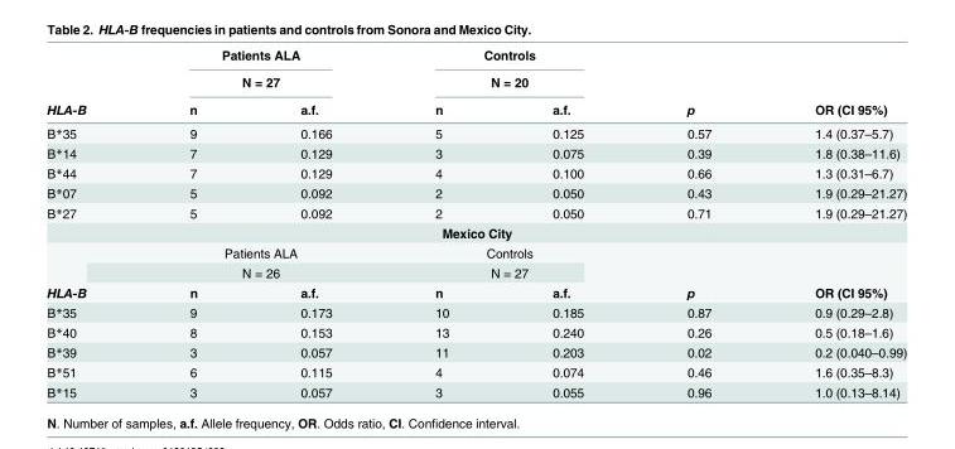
<table><thead><tr><td rowspan="3">HLA-B</td><td rowspan="2" colspan="2">Patients ALA N = 27</td><td rowspan="2" colspan="2">Controls N = 20</td><td rowspan="3">p</td><td rowspan="3">OR (CI 95%)</td></tr><tr></tr><tr><td>n</td><td>a.f.</td><td>n</td><td>a.f.</td></tr></thead><tbody><tr><td>B*35</td><td>9</td><td>0.166</td><td>5</td><td>0.125</td><td>0.57</td><td>1.4 (0.37–5.7)</td></tr><tr><td>B*14</td><td>7</td><td>0.129</td><td>3</td><td>0.075</td><td>0.39</td><td>1.8 (0.38–11.6)</td></tr><tr><td>B*44</td><td>7</td><td>0.129</td><td>4</td><td>0.100</td><td>0.66</td><td>1.3 (0.31–6.7)</td></tr><tr><td>B*07</td><td>5</td><td>0.092</td><td>2</td><td>0.050</td><td>0.43</td><td>1.9 (0.29–21.27)</td></tr><tr><td>B*27</td><td>5</td><td>0.092</td><td>2</td><td>0.050</td><td>0.71</td><td>1.9 (0.29–21.27)</td></tr><tr><td colspan="7">Mexico City</td></tr><tr><td rowspan="2"></td><td colspan="2">Patients ALA</td><td colspan="2">Controls</td><td rowspan="2"></td><td rowspan="2"></td></tr><tr><td colspan="2">N = 26</td><td colspan="2">N = 27</td></tr><tr><td>HLA-B</td><td>n</td><td>a.f.</td><td>n</td><td>a.f.</td><td>p</td><td>OR (CI 95%)</td></tr><tr><td>B*35</td><td>9</td><td>0.173</td><td>10</td><td>0.185</td><td>0.87</td><td>0.9 (0.29–2.8)</td></tr><tr><td>B*40</td><td>8</td><td>0.153</td><td>13</td><td>0.240</td><td>0.26</td><td>0.5 (0.18–1.6)</td></tr><tr><td>B*39</td><td>3</td><td>0.057</td><td>11</td><td>0.203</td><td>0.02</td><td>0.2 (0.040–0.99)</td></tr><tr><td>B*51</td><td>6</td><td>0.115</td><td>4</td><td>0.074</td><td>0.46</td><td>1.6 (0.35–8.3)</td></tr><tr><td>B*15</td><td>3</td><td>0.057</td><td>3</td><td>0.055</td><td>0.96</td><td>1.0 (0.13–8.14)</td></tr></tbody></table>